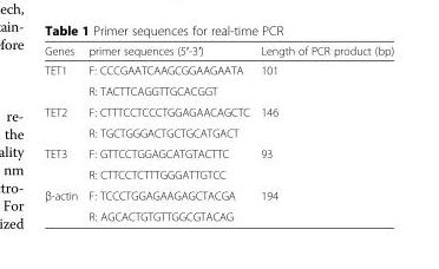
<table><thead><tr><td>Genes</td><td>primer sequences (5′-3′)</td><td>Length of PCR product (bp)</td></tr></thead><tbody><tr><td rowspan="2">TET1</td><td>F: CCCGAATCAAGCGGAAGAATA</td><td rowspan="2">101</td></tr><tr><td>R: TACTTCAGGTTGCACGGT</td></tr><tr><td rowspan="2">TET2</td><td>F: CTTTCCTCCCTGGAGAACAGCTC</td><td rowspan="2">146</td></tr><tr><td>R: TGCTGGGACTGCTGCATGACT</td></tr><tr><td rowspan="2">TET3</td><td>F: GTTCCTGGAGCATGTACTTC</td><td rowspan="2">93</td></tr><tr><td>R: CTTCCTCTTTGGGATTGTCC</td></tr><tr><td rowspan="2">β-actin</td><td>F: TCCCTGGAGAAGAGCTACGA</td><td rowspan="2">194</td></tr><tr><td>R: AGCACTGTGTTGGCGTACAG</td></tr></tbody></table>